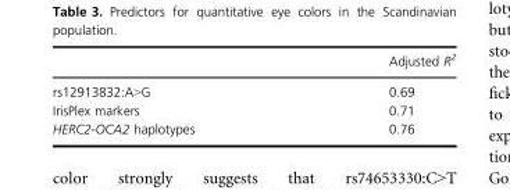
<table><thead><tr><td></td><td>Adjusted R<sup>2</sup></td></tr></thead><tbody><tr><td>rs12913832:A&gt;G</td><td>0.69</td></tr><tr><td>IrisPlex markers</td><td>0.71</td></tr><tr><td>HERC2-OCA2 haplotypes</td><td>0.76</td></tr></tbody></table>